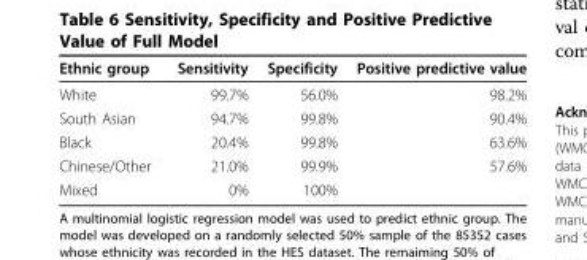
<table><thead><tr><td>Ethnic group</td><td>Sensitivity</td><td>Specificity</td><td>Positive predictive value</td></tr></thead><tbody><tr><td>White</td><td>99.7%</td><td>56.0%</td><td>98.2%</td></tr><tr><td>South Asian</td><td>94.7%</td><td>99.8%</td><td>90.4%</td></tr><tr><td>Black</td><td>20.4%</td><td>99.8%</td><td>63.6%</td></tr><tr><td>Chinese/Other</td><td>21.0%</td><td>99.9%</td><td>57.6%</td></tr><tr><td>Mixed</td><td>0%</td><td>100%</td><td></td></tr></tbody></table>